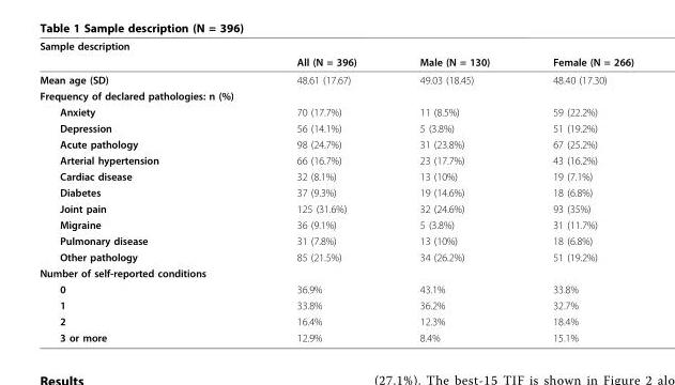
<table><thead><tr><td colspan="4">Sample description</td></tr><tr><td></td><td>All (N = 396)</td><td>Male (N = 130)</td><td>Female (N = 266)</td></tr></thead><tbody><tr><td>Mean age (SD)</td><td>48.61 (17.67)</td><td>49.03 (18.45)</td><td>48.40 (17.30)</td></tr><tr><td colspan="4">Frequency of declared pathologies: n (%)</td></tr><tr><td>Anxiety</td><td>70 (17.7%)</td><td>11 (8.5%)</td><td>59 (22.2%)</td></tr><tr><td>Depression</td><td>56 (14.1%)</td><td>5 (3.8%)</td><td>51 (19.2%)</td></tr><tr><td>Acute pathology</td><td>98 (24.7%)</td><td>31 (23.8%)</td><td>67 (25.2%)</td></tr><tr><td>Arterial hypertension</td><td>66 (16.7%)</td><td>23 (17.7%)</td><td>43 (16.2%)</td></tr><tr><td>Cardiac disease</td><td>32 (8.1%)</td><td>13 (10%)</td><td>19 (7.1%)</td></tr><tr><td>Diabetes</td><td>37 (9.3%)</td><td>19 (14.6%)</td><td>18 (6.8%)</td></tr><tr><td>Joint pain</td><td>125 (31.6%)</td><td>32 (24.6%)</td><td>93 (35%)</td></tr><tr><td>Migraine</td><td>36 (9.1%)</td><td>5 (3.8%)</td><td>31 (11.7%)</td></tr><tr><td>Pulmonary disease</td><td>31 (7.8%)</td><td>13 (10%)</td><td>18 (6.8%)</td></tr><tr><td>Other pathology</td><td>85 (21.5%)</td><td>34 (26.2%)</td><td>51 (19.2%)</td></tr><tr><td colspan="4">Number of self-reported conditions</td></tr><tr><td>0</td><td>36.9%</td><td>43.1%</td><td>33.8%</td></tr><tr><td>1</td><td>33.8%</td><td>36.2%</td><td>32.7%</td></tr><tr><td>2</td><td>16.4%</td><td>12.3%</td><td>18.4%</td></tr><tr><td>3 or more</td><td>12.9%</td><td>8.4%</td><td>15.1%</td></tr></tbody></table>